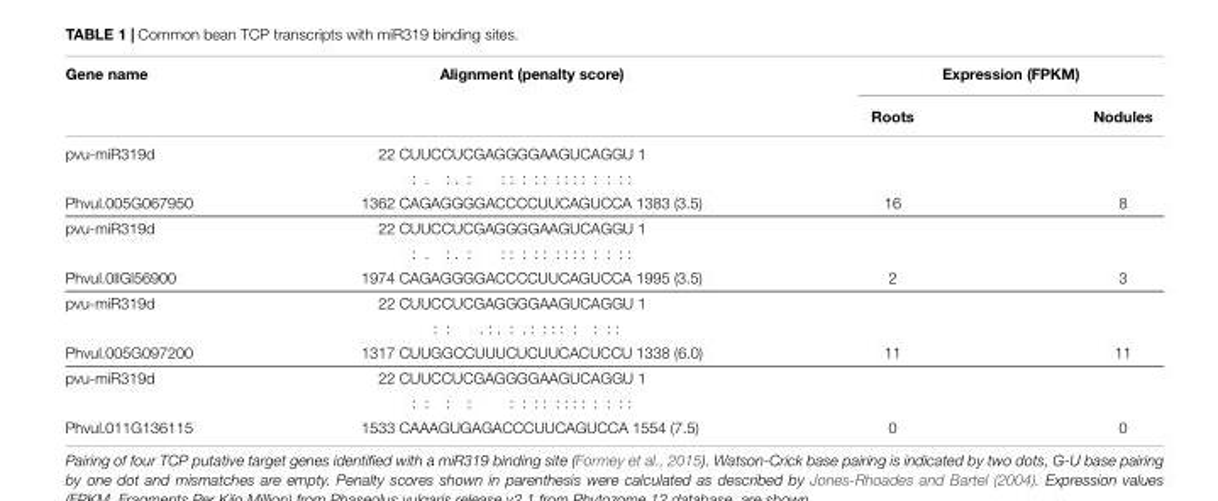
<table><thead><tr><td rowspan="2">Gene name</td><td rowspan="2">Alignment (penalty score)</td><td colspan="2">Expression (FPKM)</td></tr><tr><td>Roots</td><td>Nodules</td></tr></thead><tbody><tr><td rowspan="2">pvu-miR319d</td><td>22 CUUCCUCGAGGGGAAGUCAGGU 1</td><td></td><td></td></tr><tr><td>: . : . : : : : : : : : : : : : : :</td><td></td><td></td></tr><tr><td>Phvul.005G067950</td><td>1362 CAGAGGGGACCCCUUCAGUCCA 1383 (3.5)</td><td>16</td><td>8</td></tr><tr><td rowspan="2">pvu-miR319d</td><td>22 CUUCCUCGAGGGGAAGUCAGGU 1</td><td></td><td></td></tr><tr><td>: . : . : : : : : : : : : : : : : :</td><td></td><td></td></tr><tr><td>Phvul.0llGl56900</td><td>1974 CAGAGGGGACCCCUUCAGUCCA 1995 (3.5)</td><td>2</td><td>3</td></tr><tr><td rowspan="2">pvu-miR319d</td><td>22 CUUCCUCGAGGGGAAGUCAGGU 1</td><td></td><td></td></tr><tr><td>: : . : . : . : : : : : : : :</td><td></td><td></td></tr><tr><td>Phvul.005G097200</td><td>1317 CUUGGCCUUUCUCUUCACUCCU 1338 (6.0)</td><td>11</td><td>11</td></tr><tr><td rowspan="2">pvu-miR319d</td><td>22 CUUCCUCGAGGGGAAGUCAGGU 1</td><td></td><td></td></tr><tr><td>: : : : : : : : : : : : : : : :</td><td></td><td></td></tr><tr><td>Phvul.011G136115</td><td>1533 CAAAGUGAGACCCUUCAGUCCA 1554 (7.5)</td><td>0</td><td>0</td></tr></tbody></table>